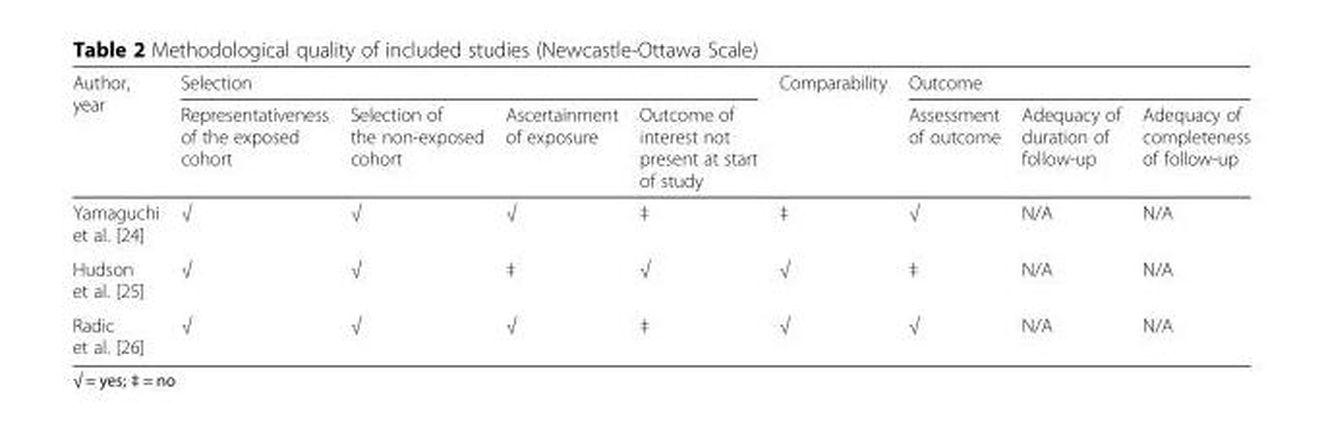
<table><thead><tr><td rowspan="2">Author, year</td><td colspan="4">Selection</td><td rowspan="2">Comparability</td><td colspan="3">Outcome</td></tr><tr><td>Representativeness of the exposed cohort</td><td>Selection of the non-exposed cohort</td><td>Ascertainment of exposure</td><td>Outcome of interest not present at start of study</td><td>Assessment of outcome</td><td>Adequacy of duration of follow-up</td><td>Adequacy of completeness of follow-up</td></tr></thead><tbody><tr><td>Yamaguchi et al. [24]</td><td>√</td><td>√</td><td>√</td><td>‡</td><td>‡</td><td>√</td><td>N/A</td><td>N/A</td></tr><tr><td>Hudson et al. [25]</td><td>√</td><td>√</td><td>‡</td><td>√</td><td>√</td><td>‡</td><td>N/A</td><td>N/A</td></tr><tr><td>Radic et al. [26]</td><td>√</td><td>√</td><td>√</td><td>‡</td><td>√</td><td>√</td><td>N/A</td><td>N/A</td></tr></tbody></table>